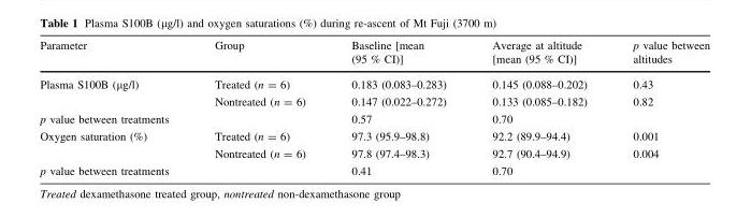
<table><thead><tr><td>Parameter</td><td>Group</td><td>Baseline [mean (95 % CI)]</td><td>Average at altitude [mean (95 % CI)]</td><td>p value between altitudes</td></tr></thead><tbody><tr><td rowspan="2">Plasma S100B (µg/l)</td><td>Treated (n = 6)</td><td>0.183 (0.083–0.283)</td><td>0.145 (0.088–0.202)</td><td>0.43</td></tr><tr><td>Nontreated (n = 6)</td><td>0.147 (0.022–0.272)</td><td>0.133 (0.085–0.182)</td><td>0.82</td></tr><tr><td>p value between treatments</td><td></td><td>0.57</td><td>0.70</td><td></td></tr><tr><td rowspan="2">Oxygen saturation (%)</td><td>Treated (n = 6)</td><td>97.3 (95.9–98.8)</td><td>92.2 (89.9–94.4)</td><td>0.001</td></tr><tr><td>Nontreated (n = 6)</td><td>97.8 (97.4–98.3)</td><td>92.7 (90.4–94.9)</td><td>0.004</td></tr><tr><td>p value between treatments</td><td></td><td>0.41</td><td>0.70</td><td></td></tr></tbody></table>